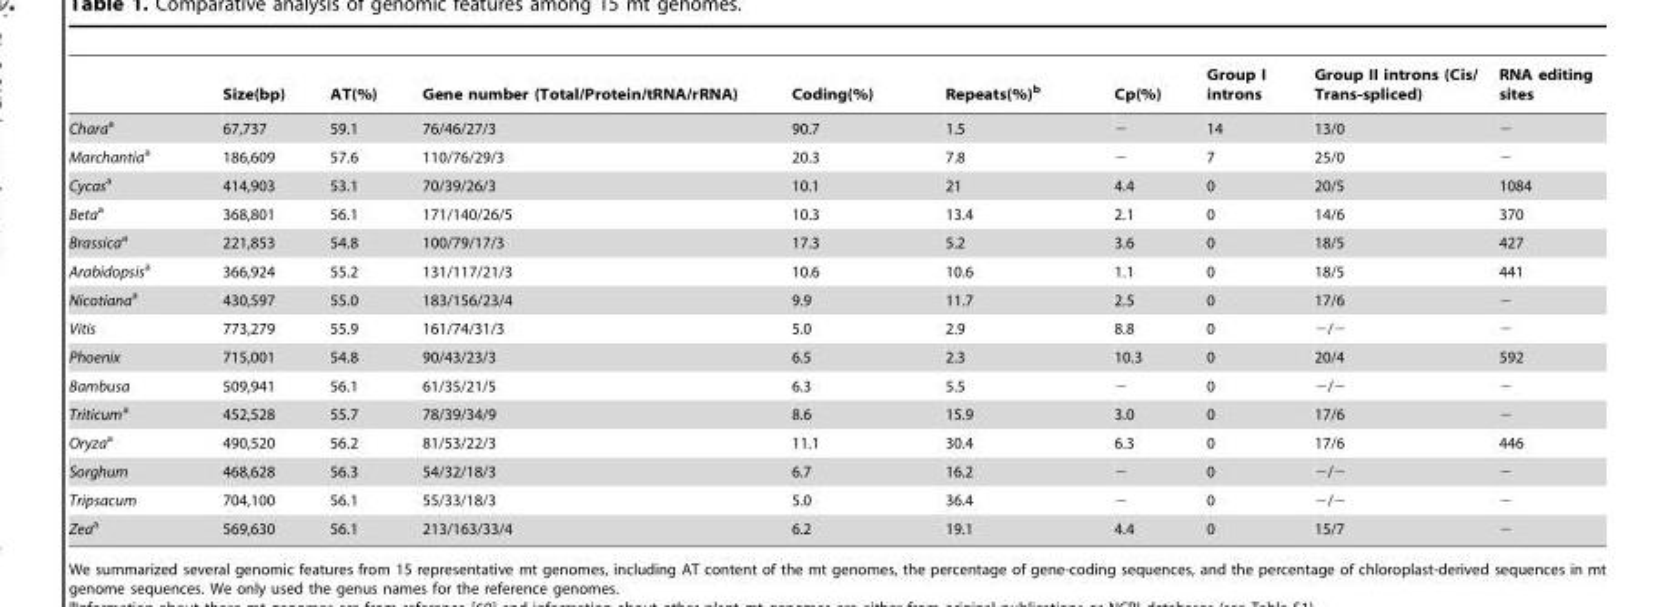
<table><thead><tr><td></td><td>Size(bp)</td><td>AT(%)</td><td>Gene number (Total/Protein/tRNA/rRNA)</td><td>Coding(%)</td><td>Repeats(%)<sup>b</sup></td><td>Cp(%)</td><td>Group I introns</td><td>Group II introns (Cis/ Trans-spliced)</td><td>RNA editing sites</td></tr></thead><tbody><tr><td>Charaa</td><td>67,737</td><td>59.1</td><td>76/46/27/3</td><td>90.7</td><td>1.5</td><td>−</td><td>14</td><td>13/0</td><td>−</td></tr><tr><td>Marchantiaa</td><td>186,609</td><td>57.6</td><td>110/76/29/3</td><td>20.3</td><td>7.8</td><td>−</td><td>7</td><td>25/0</td><td>−</td></tr><tr><td>Cycasa</td><td>414,903</td><td>53.1</td><td>70/39/26/3</td><td>10.1</td><td>21</td><td>4.4</td><td>0</td><td>20/5</td><td>1084</td></tr><tr><td>Betaa</td><td>368,801</td><td>56.1</td><td>171/140/26/5</td><td>10.3</td><td>13.4</td><td>2.1</td><td>0</td><td>14/6</td><td>370</td></tr><tr><td>Brassicaa</td><td>221,853</td><td>54.8</td><td>100/79/17/3</td><td>17.3</td><td>5.2</td><td>3.6</td><td>0</td><td>18/5</td><td>427</td></tr><tr><td>Arabidopsisa</td><td>366,924</td><td>55.2</td><td>131/117/21/3</td><td>10.6</td><td>10.6</td><td>1.1</td><td>0</td><td>18/5</td><td>441</td></tr><tr><td>Nicotianaa</td><td>430,597</td><td>55.0</td><td>183/156/23/4</td><td>9.9</td><td>11.7</td><td>2.5</td><td>0</td><td>17/6</td><td>−</td></tr><tr><td>Vitis</td><td>773,279</td><td>55.9</td><td>161/74/31/3</td><td>5.0</td><td>2.9</td><td>8.8</td><td>0</td><td>−/−</td><td>−</td></tr><tr><td>Phoenix</td><td>715,001</td><td>54.8</td><td>90/43/23/3</td><td>6.5</td><td>2.3</td><td>10.3</td><td>0</td><td>20/4</td><td>592</td></tr><tr><td>Bambusa</td><td>509,941</td><td>56.1</td><td>61/35/21/5</td><td>6.3</td><td>5.5</td><td>−</td><td>0</td><td>−/−</td><td>−</td></tr><tr><td>Triticuma</td><td>452,528</td><td>55.7</td><td>78/39/34/9</td><td>8.6</td><td>15.9</td><td>3.0</td><td>0</td><td>17/6</td><td>−</td></tr><tr><td>Oryzaa</td><td>490,520</td><td>56.2</td><td>81/53/22/3</td><td>11.1</td><td>30.4</td><td>6.3</td><td>0</td><td>17/6</td><td>446</td></tr><tr><td>Sorghum</td><td>468,628</td><td>56.3</td><td>54/32/18/3</td><td>6.7</td><td>16.2</td><td>−</td><td>0</td><td>−/−</td><td>−</td></tr><tr><td>Tripsacum</td><td>704,100</td><td>56.1</td><td>55/33/18/3</td><td>5.0</td><td>36.4</td><td>−</td><td>0</td><td>−/−</td><td>−</td></tr><tr><td>Zeaa</td><td>569,630</td><td>56.1</td><td>213/163/33/4</td><td>6.2</td><td>19.1</td><td>4.4</td><td>0</td><td>15/7</td><td>−</td></tr></tbody></table>